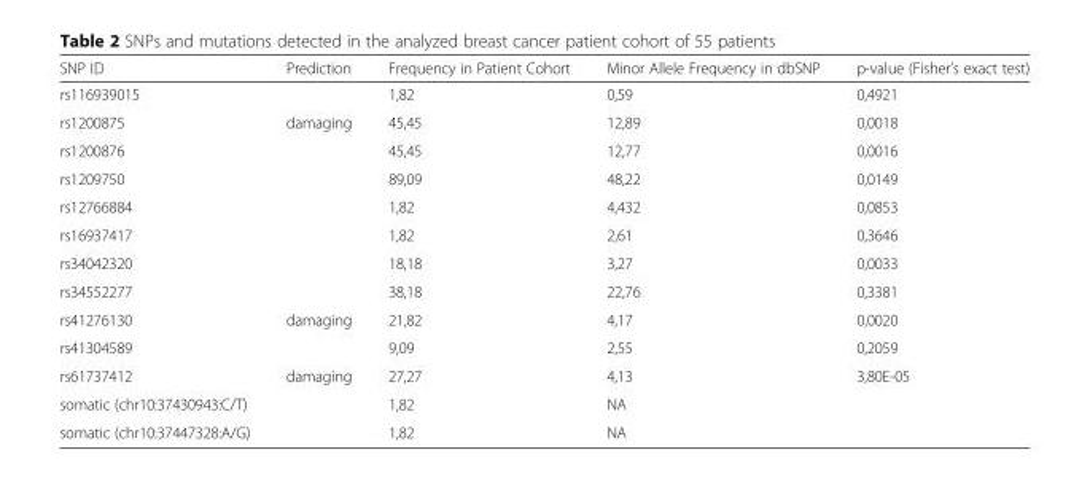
<table><thead><tr><td>SNP ID</td><td>Prediction</td><td>Frequency in Patient Cohort</td><td>Minor Allele Frequency in dbSNP</td><td>p-value (Fisher’s exact test)</td></tr></thead><tbody><tr><td>rs116939015</td><td></td><td>1,82</td><td>0,59</td><td>0,4921</td></tr><tr><td>rs1200875</td><td>damaging</td><td>45,45</td><td>12,89</td><td>0,0018</td></tr><tr><td>rs1200876</td><td></td><td>45,45</td><td>12,77</td><td>0,0016</td></tr><tr><td>rs1209750</td><td></td><td>89,09</td><td>48,22</td><td>0,0149</td></tr><tr><td>rs12766884</td><td></td><td>1,82</td><td>4,432</td><td>0,0853</td></tr><tr><td>rs16937417</td><td></td><td>1,82</td><td>2,61</td><td>0,3646</td></tr><tr><td>rs34042320</td><td></td><td>18,18</td><td>3,27</td><td>0,0033</td></tr><tr><td>rs34552277</td><td></td><td>38,18</td><td>22,76</td><td>0,3381</td></tr><tr><td>rs41276130</td><td>damaging</td><td>21,82</td><td>4,17</td><td>0,0020</td></tr><tr><td>rs41304589</td><td></td><td>9,09</td><td>2,55</td><td>0,2059</td></tr><tr><td>rs61737412</td><td>damaging</td><td>27,27</td><td>4,13</td><td>3,80E-05</td></tr><tr><td>somatic (chr10:37430943:C/T)</td><td></td><td>1,82</td><td>NA</td><td></td></tr><tr><td>somatic (chr10:37447328:A/G)</td><td></td><td>1,82</td><td>NA</td><td></td></tr></tbody></table>